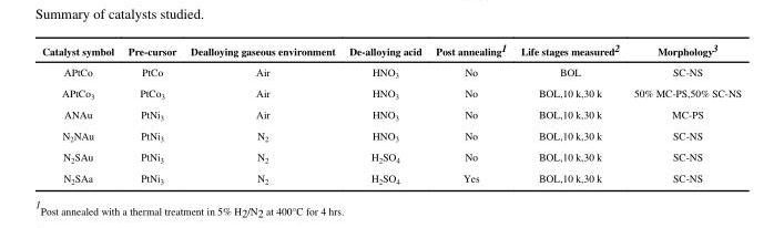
<table><thead><tr><td>Catalyst symbol</td><td>Pre-cursor</td><td>Dealloying gaseous environment</td><td>De-alloying acid</td><td>Post annealing<sup>1</sup></td><td>Life stages measured<sup>2</sup></td><td>Morphology<sup>3</sup></td></tr></thead><tbody><tr><td>APtCo</td><td>PtCo</td><td>Air</td><td>HNO<sub>3</sub></td><td>No</td><td>BOL</td><td>SC-NS</td></tr><tr><td>APtCo<sub>3</sub></td><td>PtCo<sub>3</sub></td><td>Air</td><td>HNO<sub>3</sub></td><td>No</td><td>BOL,10 k,30 k</td><td>50% MC-PS,50% SC-NS</td></tr><tr><td>ANAu</td><td>PtNi<sub>3</sub></td><td>Air</td><td>HNO<sub>3</sub></td><td>No</td><td>BOL,10 k,30 k</td><td>MC-PS</td></tr><tr><td>N<sub>2</sub>NAu</td><td>PtNi<sub>3</sub></td><td>N<sub>2</sub></td><td>HNO<sub>3</sub></td><td>No</td><td>BOL,10 k,30 k</td><td>SC-NS</td></tr><tr><td>N<sub>2</sub>SAu</td><td>PtNi<sub>3</sub></td><td>N<sub>2</sub></td><td>H<sub>2</sub>SO<sub>4</sub></td><td>No</td><td>BOL,10 k,30 k</td><td>SC-NS</td></tr><tr><td>N<sub>2</sub>SAa</td><td>PtNi<sub>3</sub></td><td>N<sub>2</sub></td><td>H<sub>2</sub>SO<sub>4</sub></td><td>Yes</td><td>BOL,10 k,30 k</td><td>SC-NS</td></tr></tbody></table>